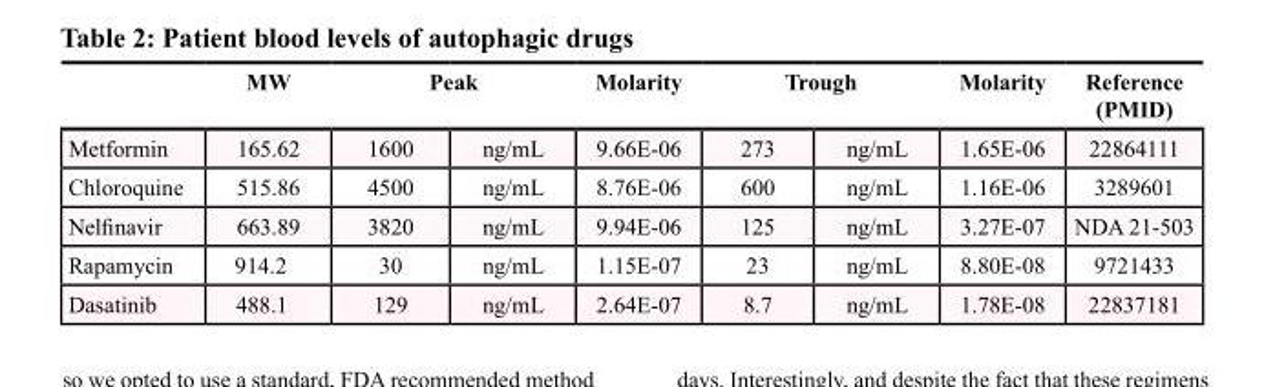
<table><thead><tr><td rowspan="2">Metformin</td><td rowspan="2">MW 165.62</td><td colspan="2">Peak</td><td rowspan="2">Molarity 9.66E-06</td><td colspan="2">Trough</td><td rowspan="2">Molarity 1.65E-06</td><td rowspan="2">Reference (PMID) 22864111</td></tr><tr><td>1600</td><td>ng/mL</td><td>273</td><td>ng/mL</td></tr></thead><tbody><tr><td>Chloroquine</td><td>515.86</td><td>4500</td><td>ng/mL</td><td>8.76E-06</td><td>600</td><td>ng/mL</td><td>1.16E-06</td><td>3289601</td></tr><tr><td>Nelfinavir</td><td>663.89</td><td>3820</td><td>ng/mL</td><td>9.94E-06</td><td>125</td><td>ng/mL</td><td>3.27E-07</td><td>NDA 21-503</td></tr><tr><td>Rapamycin</td><td>914.2</td><td>30</td><td>ng/mL</td><td>1.15E-07</td><td>23</td><td>ng/mL</td><td>8.80E-08</td><td>9721433</td></tr><tr><td>Dasatinib</td><td>488.1</td><td>129</td><td>ng/mL</td><td>2.64E-07</td><td>8.7</td><td>ng/mL</td><td>1.78E-08</td><td>22837181</td></tr></tbody></table>